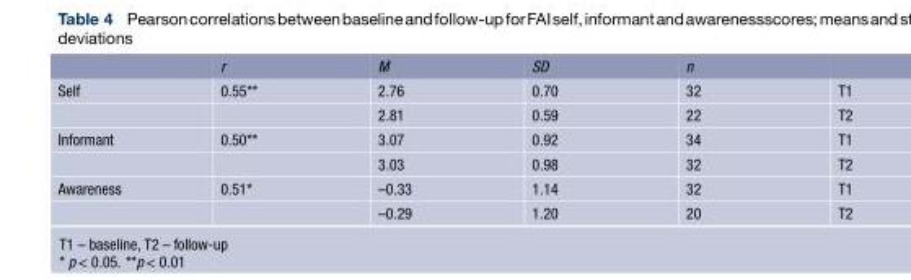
<table><thead><tr><td></td><td>r</td><td>M</td><td>SD</td><td>n</td><td></td></tr></thead><tbody><tr><td rowspan="2">Self</td><td>0.55**</td><td>2.76</td><td>0.70</td><td>32</td><td>T1</td></tr><tr><td></td><td>2.81</td><td>0.59</td><td>22</td><td>T2</td></tr><tr><td rowspan="2">Informant</td><td>0.50**</td><td>3.07</td><td>0.92</td><td>34</td><td>T1</td></tr><tr><td></td><td>3.03</td><td>0.98</td><td>32</td><td>T2</td></tr><tr><td rowspan="2">Awareness</td><td>0.51*</td><td>–0.33</td><td>1.14</td><td>32</td><td>T1</td></tr><tr><td></td><td>–0.29</td><td>1.20</td><td>20</td><td>T2</td></tr></tbody></table>